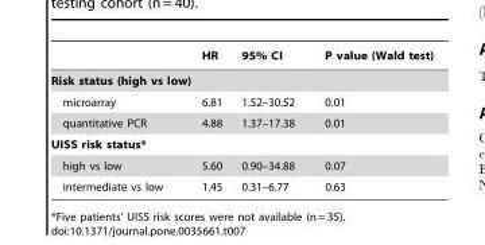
<table><thead><tr><td></td><td>HR</td><td>95% CI</td><td>P value (Wald test)</td></tr></thead><tbody><tr><td colspan="4">Risk status (high vs low)</td></tr><tr><td>microarray</td><td>6.81</td><td>1.52–30.52</td><td>0.01</td></tr><tr><td>quantitative PCR</td><td>4.88</td><td>1.37–17.38</td><td>0.01</td></tr><tr><td colspan="4">UISS risk status*</td></tr><tr><td>high vs low</td><td>5.60</td><td>0.90–34.88</td><td>0.07</td></tr><tr><td>intermediate vs low</td><td>1.45</td><td>0.31–6.77</td><td>0.63</td></tr></tbody></table>